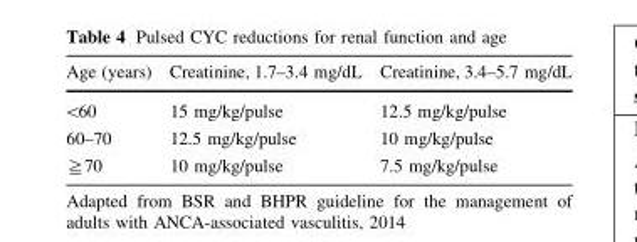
<table><thead><tr><td>Age (years)</td><td>Creatinine, 1.7–3.4 mg/dL</td><td>Creatinine, 3.4–5.7 mg/dL</td></tr></thead><tbody><tr><td>&lt;60</td><td>15 mg/kg/pulse</td><td>12.5 mg/kg/pulse</td></tr><tr><td>60–70</td><td>12.5 mg/kg/pulse</td><td>10 mg/kg/pulse</td></tr><tr><td>≧70</td><td>10 mg/kg/pulse</td><td>7.5 mg/kg/pulse</td></tr></tbody></table>